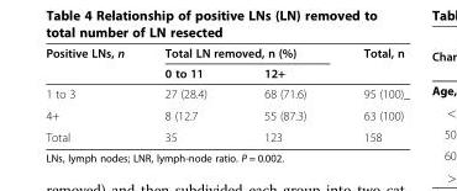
<table><thead><tr><td rowspan="2">Positive LNs, n</td><td colspan="2">Total LN removed, n (%)</td><td rowspan="2">Total, n</td></tr><tr><td>0 to 11</td><td>12+</td></tr></thead><tbody><tr><td>1 to 3</td><td>27 (28.4)</td><td>68 (71.6)</td><td>95 (100)_</td></tr><tr><td>4+</td><td>8 (12.7</td><td>55 (87.3)</td><td>63 (100)</td></tr><tr><td>Total</td><td>35</td><td>123</td><td>158</td></tr></tbody></table>